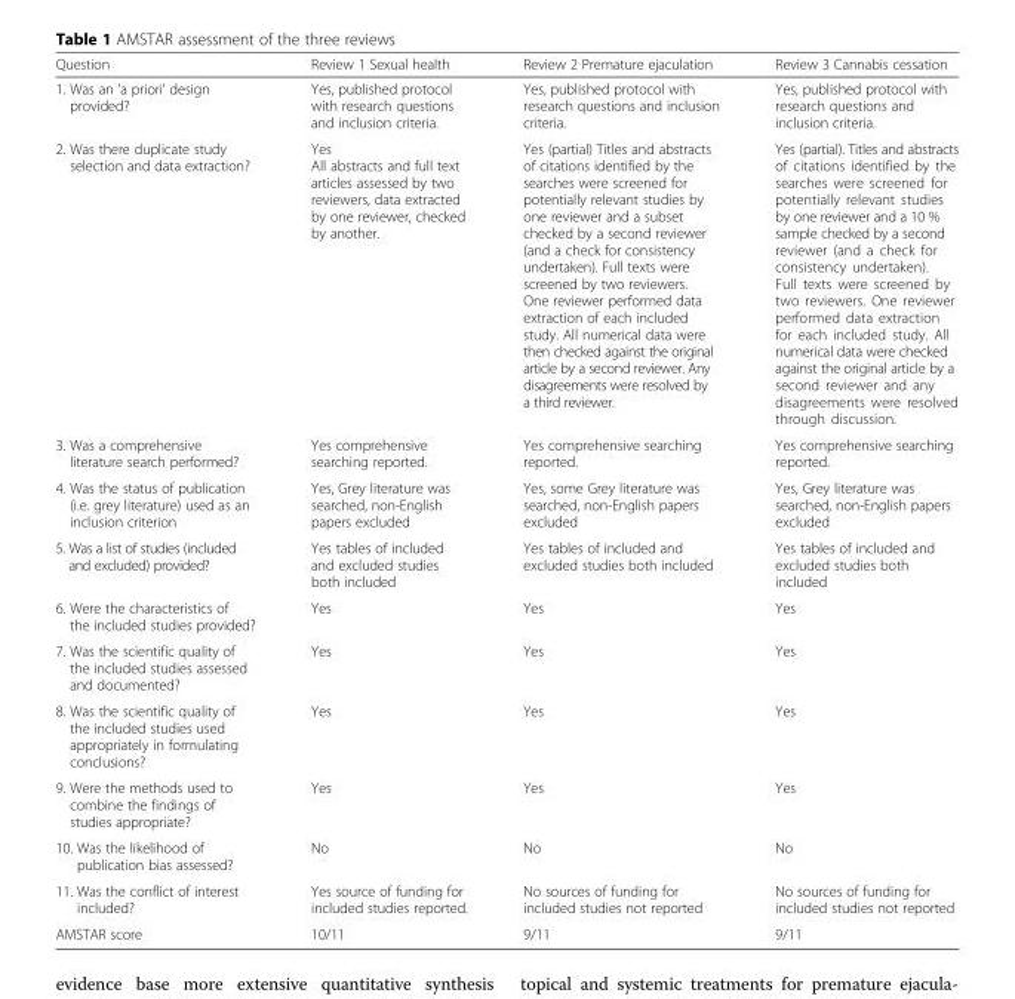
<table><thead><tr><td>Question</td><td>Review 1 Sexual health</td><td>Review 2 Premature ejaculation</td><td>Review 3 Cannabis cessation</td></tr></thead><tbody><tr><td>1. Was an &#x27;a priori&#x27; design provided?</td><td>Yes, published protocol with research questions and inclusion criteria.</td><td>Yes, published protocol with research questions and inclusion criteria.</td><td>Yes, published protocol with research questions and inclusion criteria.</td></tr><tr><td>2. Was there duplicate study selection and data extraction?</td><td>Yes All abstracts and full text articles assessed by two reviewers, data extracted by one reviewer, checked by another.</td><td>Yes (partial) Titles and abstracts of citations identified by the searches were screened for potentially relevant studies by one reviewer and a subset checked by a second reviewer (and a check for consistency undertaken). Full texts were screened by two reviewers. One reviewer performed data extraction of each included study. All numerical data were then checked against the original article by a second reviewer. Any disagreements were resolved by a third reviewer.</td><td>Yes (partial). Titles and abstracts of citations identified by the searches were screened for potentially relevant studies by one reviewer and a 10 % sample checked by a second reviewer (and a check for consistency undertaken). Full texts were screened by two reviewers. One reviewer performed data extraction for each included study. All numerical data were checked against the original article by a second reviewer and any disagreements were resolved through discussion.</td></tr><tr><td>3. Was a comprehensive literature search performed?</td><td>Yes comprehensive searching reported.</td><td>Yes comprehensive searching reported.</td><td>Yes comprehensive searching reported.</td></tr><tr><td>4. Was the status of publication (i.e. grey literature) used as an inclusion criterion</td><td>Yes, Grey literature was searched, non-English papers excluded</td><td>Yes, some Grey literature was searched, non-English papers excluded</td><td>Yes, Grey literature was searched, non-English papers excluded</td></tr><tr><td>5. Was a list of studies (included and excluded) provided?</td><td>Yes tables of included and excluded studies both included</td><td>Yes tables of included and excluded studies both included</td><td>Yes tables of included and excluded studies both included</td></tr><tr><td>6. Were the characteristics of the included studies provided?</td><td>Yes</td><td>Yes</td><td>Yes</td></tr><tr><td>7. Was the scientific quality of the included studies assessed and documented?</td><td>Yes</td><td>Yes</td><td>Yes</td></tr><tr><td>8. Was the scientific quality of the included studies used appropriately in formulating conclusions?</td><td>Yes</td><td>Yes</td><td>Yes</td></tr><tr><td>9. Were the methods used to combine the findings of studies appropriate?</td><td>Yes</td><td>Yes</td><td>Yes</td></tr><tr><td>10. Was the likelihood of publication bias assessed?</td><td>No</td><td>No</td><td>No</td></tr><tr><td>11. Was the conflict of interest included?</td><td>Yes source of funding for included studies reported.</td><td>No sources of funding for included studies not reported</td><td>No sources of funding for included studies not reported</td></tr><tr><td>AMSTAR score</td><td>10/11</td><td>9/11</td><td>9/11</td></tr></tbody></table>